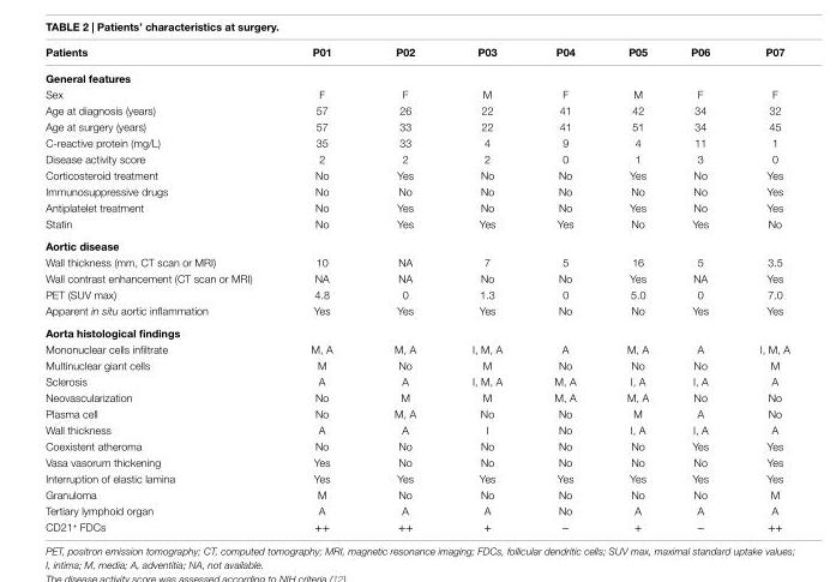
<table><thead><tr><td>Patients</td><td>P01</td><td>P02</td><td>P03</td><td>P04</td><td>P05</td><td>P06</td><td>P07</td></tr></thead><tbody><tr><td colspan="8">general features</td></tr><tr><td>Sex</td><td>F</td><td>F</td><td>M</td><td>F</td><td>M</td><td>F</td><td>F</td></tr><tr><td>Age at diagnosis (years)</td><td>57</td><td>26</td><td>22</td><td>41</td><td>42</td><td>34</td><td>32</td></tr><tr><td>Age at surgery (years)</td><td>57</td><td>33</td><td>22</td><td>41</td><td>51</td><td>34</td><td>45</td></tr><tr><td>C-reactive protein (mg/L)</td><td>35</td><td>33</td><td>4</td><td>9</td><td>4</td><td>11</td><td>1</td></tr><tr><td>Disease activity score</td><td>2</td><td>2</td><td>2</td><td>0</td><td>1</td><td>3</td><td>0</td></tr><tr><td>Corticosteroid treatment</td><td>No</td><td>Yes</td><td>No</td><td>No</td><td>Yes</td><td>No</td><td>Yes</td></tr><tr><td>Immunosuppressive drugs</td><td>No</td><td>No</td><td>No</td><td>No</td><td>No</td><td>No</td><td>Yes</td></tr><tr><td>Antiplatelet treatment</td><td>No</td><td>Yes</td><td>No</td><td>No</td><td>Yes</td><td>No</td><td>Yes</td></tr><tr><td>Statin</td><td>No</td><td>Yes</td><td>Yes</td><td>Yes</td><td>No</td><td>Yes</td><td>No</td></tr><tr><td colspan="8">aortic disease</td></tr><tr><td>Wall thickness (mm, CT scan or MRI)</td><td>10</td><td>NA</td><td>7</td><td>5</td><td>16</td><td>5</td><td>3.5</td></tr><tr><td>Wall contrast enhancement (CT scan or MRI)</td><td>NA</td><td>NA</td><td>No</td><td>No</td><td>Yes</td><td>NA</td><td>Yes</td></tr><tr><td>PET (SUV max)</td><td>4.8</td><td>0</td><td>1.3</td><td>0</td><td>5.0</td><td>0</td><td>7.0</td></tr><tr><td>Apparent in situ aortic inflammation</td><td>Yes</td><td>Yes</td><td>Yes</td><td>No</td><td>No</td><td>Yes</td><td>Yes</td></tr><tr><td colspan="8">aorta histological findings</td></tr><tr><td>Mononuclear cells infiltrate</td><td>M, A</td><td>M, A</td><td>I, M, A</td><td>A</td><td>M, A</td><td>A</td><td>I, M, A</td></tr><tr><td>Multinuclear giant cells</td><td>M</td><td>No</td><td>M</td><td>No</td><td>No</td><td>No</td><td>M</td></tr><tr><td>Sclerosis</td><td>A</td><td>A</td><td>I, M, A</td><td>M, A</td><td>I, A</td><td>I, A</td><td>A</td></tr><tr><td>Neovascularization</td><td>No</td><td>M</td><td>M</td><td>M, A</td><td>M, A</td><td>No</td><td>No</td></tr><tr><td>Plasma cell</td><td>No</td><td>M, A</td><td>No</td><td>No</td><td>M</td><td>A</td><td>No</td></tr><tr><td>Wall thickness</td><td>A</td><td>A</td><td>I</td><td>No</td><td>I, A</td><td>I, A</td><td>A</td></tr><tr><td>Coexistent atheroma</td><td>No</td><td>No</td><td>No</td><td>No</td><td>No</td><td>Yes</td><td>Yes</td></tr><tr><td>Vasa vasorum thickening</td><td>Yes</td><td>No</td><td>No</td><td>No</td><td>No</td><td>No</td><td>Yes</td></tr><tr><td>Interruption of elastic lamina</td><td>Yes</td><td>Yes</td><td>Yes</td><td>Yes</td><td>Yes</td><td>Yes</td><td>Yes</td></tr><tr><td>Granuloma</td><td>M</td><td>No</td><td>No</td><td>No</td><td>No</td><td>No</td><td>M</td></tr><tr><td>Tertiary lymphoid organ</td><td>A</td><td>A</td><td>A</td><td>No</td><td>A</td><td>A</td><td>A</td></tr><tr><td>CD21<sup>+</sup> FDCs</td><td>++</td><td>++</td><td>+</td><td>−</td><td>+</td><td>−</td><td>++</td></tr></tbody></table>